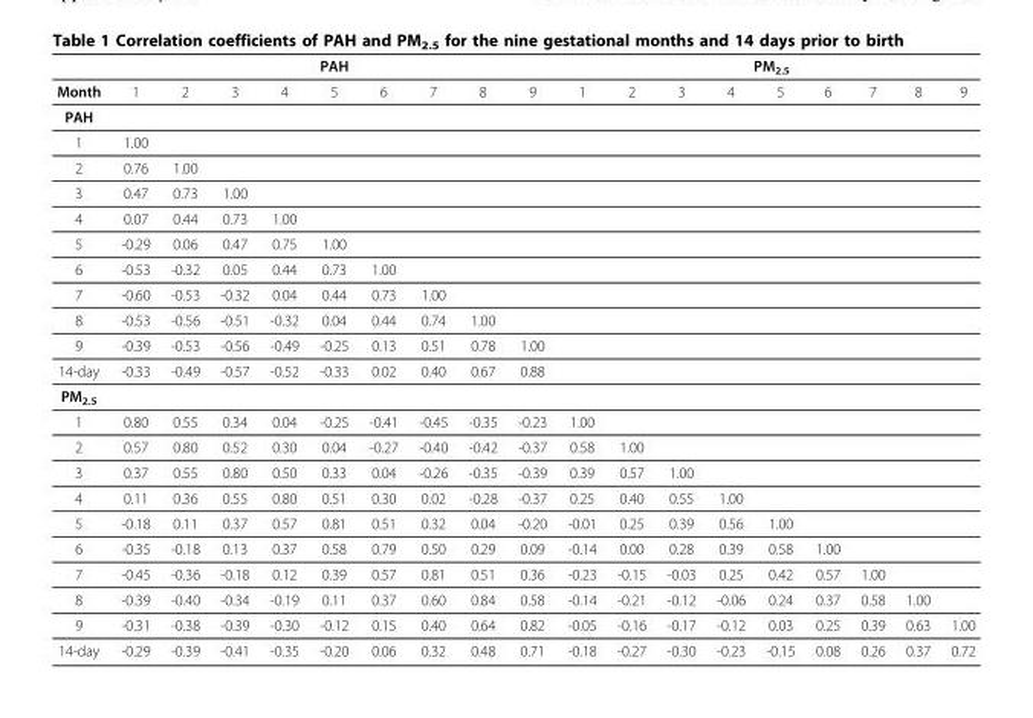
<table><thead><tr><td rowspan="2">Month</td><td colspan="9">PAH</td><td colspan="9">PM2.5</td></tr><tr><td>1</td><td>2</td><td>3</td><td>4</td><td>5</td><td>6</td><td>7</td><td>8</td><td>9</td><td>1</td><td>2</td><td>3</td><td>4</td><td>5</td><td>6</td><td>7</td><td>8</td><td>9</td></tr></thead><tbody><tr><td colspan="19">PAH</td></tr><tr><td>1</td><td>1.00</td><td></td><td></td><td></td><td></td><td></td><td></td><td></td><td></td><td></td><td></td><td></td><td></td><td></td><td></td><td></td><td></td><td></td></tr><tr><td>2</td><td>0.76</td><td>1.00</td><td></td><td></td><td></td><td></td><td></td><td></td><td></td><td></td><td></td><td></td><td></td><td></td><td></td><td></td><td></td><td></td></tr><tr><td>3</td><td>0.47</td><td>0.73</td><td>1.00</td><td></td><td></td><td></td><td></td><td></td><td></td><td></td><td></td><td></td><td></td><td></td><td></td><td></td><td></td><td></td></tr><tr><td>4</td><td>0.07</td><td>0.44</td><td>0.73</td><td>1.00</td><td></td><td></td><td></td><td></td><td></td><td></td><td></td><td></td><td></td><td></td><td></td><td></td><td></td><td></td></tr><tr><td>5</td><td>-0.29</td><td>0.06</td><td>0.47</td><td>0.75</td><td>1.00</td><td></td><td></td><td></td><td></td><td></td><td></td><td></td><td></td><td></td><td></td><td></td><td></td><td></td></tr><tr><td>6</td><td>-0.53</td><td>-0.32</td><td>0.05</td><td>0.44</td><td>0.73</td><td>1.00</td><td></td><td></td><td></td><td></td><td></td><td></td><td></td><td></td><td></td><td></td><td></td><td></td></tr><tr><td>7</td><td>-0.60</td><td>-0.53</td><td>-0.32</td><td>0.04</td><td>0.44</td><td>0.73</td><td>1.00</td><td></td><td></td><td></td><td></td><td></td><td></td><td></td><td></td><td></td><td></td><td></td></tr><tr><td>8</td><td>-0.53</td><td>-0.56</td><td>-0.51</td><td>-0.32</td><td>0.04</td><td>0.44</td><td>0.74</td><td>1.00</td><td></td><td></td><td></td><td></td><td></td><td></td><td></td><td></td><td></td><td></td></tr><tr><td>9</td><td>-0.39</td><td>-0.53</td><td>-0.56</td><td>-0.49</td><td>-0.25</td><td>0.13</td><td>0.51</td><td>0.78</td><td>1.00</td><td></td><td></td><td></td><td></td><td></td><td></td><td></td><td></td><td></td></tr><tr><td>14-day</td><td>-0.33</td><td>-0.49</td><td>-0.57</td><td>-0.52</td><td>-0.33</td><td>0.02</td><td>0.40</td><td>0.67</td><td>0.88</td><td></td><td></td><td></td><td></td><td></td><td></td><td></td><td></td><td></td></tr><tr><td colspan="19">PM<sub>2.5</sub></td></tr><tr><td>1</td><td>0.80</td><td>0.55</td><td>0.34</td><td>0.04</td><td>-0.25</td><td>-0.41</td><td>-0.45</td><td>-0.35</td><td>-0.23</td><td>1.00</td><td></td><td></td><td></td><td></td><td></td><td></td><td></td><td></td></tr><tr><td>2</td><td>0.57</td><td>0.80</td><td>0.52</td><td>0.30</td><td>0.04</td><td>-0.27</td><td>-0.40</td><td>-0.42</td><td>-0.37</td><td>0.58</td><td>1.00</td><td></td><td></td><td></td><td></td><td></td><td></td><td></td></tr><tr><td>3</td><td>0.37</td><td>0.55</td><td>0.80</td><td>0.50</td><td>0.33</td><td>0.04</td><td>-0.26</td><td>-0.35</td><td>-0.39</td><td>0.39</td><td>0.57</td><td>1.00</td><td></td><td></td><td></td><td></td><td></td><td></td></tr><tr><td>4</td><td>0.11</td><td>0.36</td><td>0.55</td><td>0.80</td><td>0.51</td><td>0.30</td><td>0.02</td><td>-0.28</td><td>-0.37</td><td>0.25</td><td>0.40</td><td>0.55</td><td>1.00</td><td></td><td></td><td></td><td></td><td></td></tr><tr><td>5</td><td>-0.18</td><td>0.11</td><td>0.37</td><td>0.57</td><td>0.81</td><td>0.51</td><td>0.32</td><td>0.04</td><td>-0.20</td><td>-0.01</td><td>0.25</td><td>0.39</td><td>0.56</td><td>1.00</td><td></td><td></td><td></td><td></td></tr><tr><td>6</td><td>-0.35</td><td>-0.18</td><td>0.13</td><td>0.37</td><td>0.58</td><td>0.79</td><td>0.50</td><td>0.29</td><td>0.09</td><td>-0.14</td><td>0.00</td><td>0.28</td><td>0.39</td><td>0.58</td><td>1.00</td><td></td><td></td><td></td></tr><tr><td>7</td><td>-0.45</td><td>-0.36</td><td>-0.18</td><td>0.12</td><td>0.39</td><td>0.57</td><td>0.81</td><td>0.51</td><td>0.36</td><td>-0.23</td><td>-0.15</td><td>-0.03</td><td>0.25</td><td>0.42</td><td>0.57</td><td>1.00</td><td></td><td></td></tr><tr><td>8</td><td>-0.39</td><td>-0.40</td><td>-0.34</td><td>-0.19</td><td>0.11</td><td>0.37</td><td>0.60</td><td>0.84</td><td>0.58</td><td>-0.14</td><td>-0.21</td><td>-0.12</td><td>-0.06</td><td>0.24</td><td>0.37</td><td>0.58</td><td>1.00</td><td></td></tr><tr><td>9</td><td>-0.31</td><td>-0.38</td><td>-0.39</td><td>-0.30</td><td>-0.12</td><td>0.15</td><td>0.40</td><td>0.64</td><td>0.82</td><td>-0.05</td><td>-0.16</td><td>-0.17</td><td>-0.12</td><td>0.03</td><td>0.25</td><td>0.39</td><td>0.63</td><td>1.00</td></tr><tr><td>14-day</td><td>-0.29</td><td>-0.39</td><td>-0.41</td><td>-0.35</td><td>-0.20</td><td>0.06</td><td>0.32</td><td>0.48</td><td>0.71</td><td>-0.18</td><td>-0.27</td><td>-0.30</td><td>-0.23</td><td>-0.15</td><td>0.08</td><td>0.26</td><td>0.37</td><td>0.72</td></tr></tbody></table>